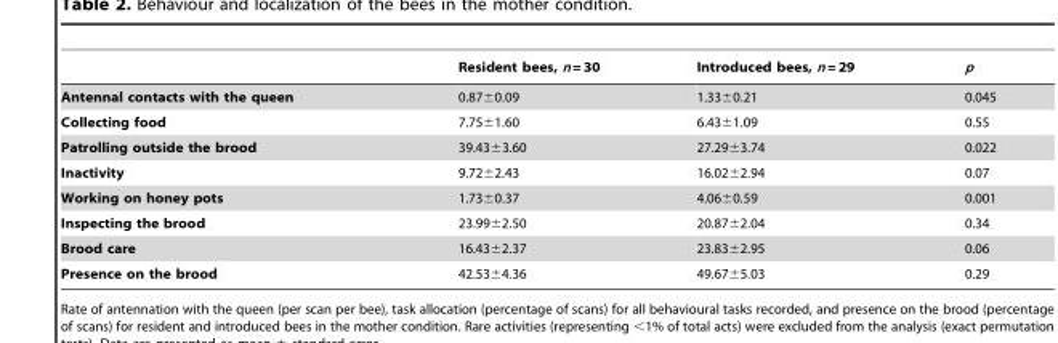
<table><thead><tr><td></td><td>Resident bees, n = 30</td><td>Introduced bees, n = 29</td><td>p</td></tr></thead><tbody><tr><td>Antennal contacts with the queen</td><td>0.87±0.09</td><td>1.33±0.21</td><td>0.045</td></tr><tr><td>Collecting food</td><td>7.75±1.60</td><td>6.43±1.09</td><td>0.55</td></tr><tr><td>Patrolling outside the brood</td><td>39.43±3.60</td><td>27.29±3.74</td><td>0.022</td></tr><tr><td>Inactivity</td><td>9.72±2.43</td><td>16.02±2.94</td><td>0.07</td></tr><tr><td>Working on honey pots</td><td>1.73±0.37</td><td>4.06±0.59</td><td>0.001</td></tr><tr><td>Inspecting the brood</td><td>23.99±2.50</td><td>20.87±2.04</td><td>0.34</td></tr><tr><td>Brood care</td><td>16.43±2.37</td><td>23.83±2.95</td><td>0.06</td></tr><tr><td>Presence on the brood</td><td>42.53±4.36</td><td>49.67±5.03</td><td>0.29</td></tr></tbody></table>